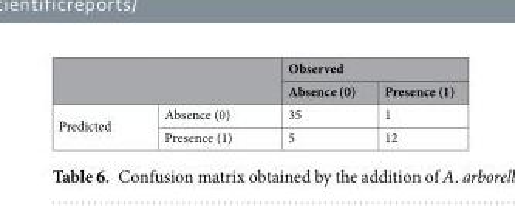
<table><thead><tr><td rowspan="2"></td><td rowspan="2"></td><td colspan="2">Observed</td></tr><tr><td>Absence (0)</td><td>Presence (1)</td></tr></thead><tbody><tr><td rowspan="2">Predicted</td><td>Absence (0)</td><td>35</td><td>1</td></tr><tr><td>Presence (1)</td><td>5</td><td>12</td></tr></tbody></table>